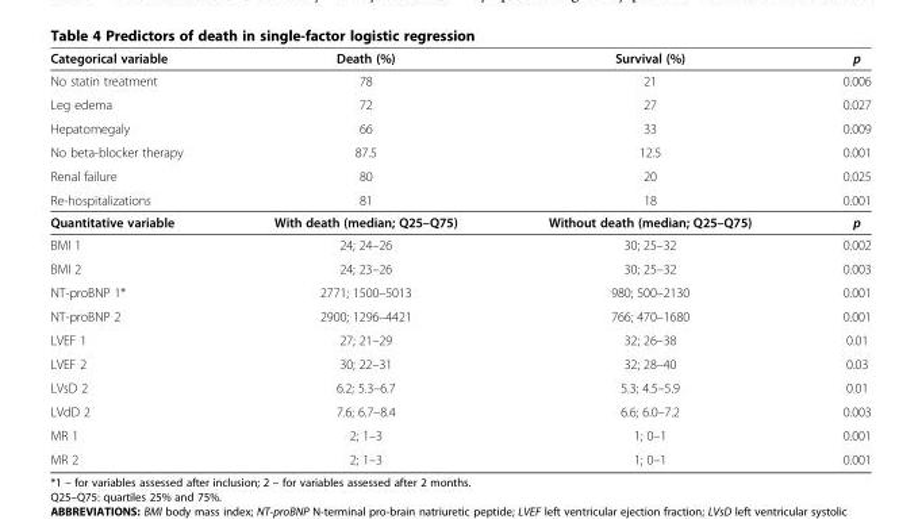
<table><thead><tr><td>Categorical variable</td><td>Death (%)</td><td>Survival (%)</td><td>p</td></tr></thead><tbody><tr><td>No statin treatment</td><td>78</td><td>21</td><td>0.006</td></tr><tr><td>Leg edema</td><td>72</td><td>27</td><td>0.027</td></tr><tr><td>Hepatomegaly</td><td>66</td><td>33</td><td>0.009</td></tr><tr><td>No beta-blocker therapy</td><td>87.5</td><td>12.5</td><td>0.001</td></tr><tr><td>Renal failure</td><td>80</td><td>20</td><td>0.025</td></tr><tr><td>Re-hospitalizations</td><td>81</td><td>18</td><td>0.001</td></tr><tr><td>Quantitative variable</td><td>With death (median; Q25–Q75)</td><td>Without death (median; Q25–Q75)</td><td>p</td></tr><tr><td>BMI 1</td><td>24; 24–26</td><td>30; 25–32</td><td>0.002</td></tr><tr><td>BMI 2</td><td>24; 23–26</td><td>30; 25–32</td><td>0.003</td></tr><tr><td>NT-proBNP 1*</td><td>2771; 1500–5013</td><td>980; 500–2130</td><td>0.001</td></tr><tr><td>NT-proBNP 2</td><td>2900; 1296–4421</td><td>766; 470–1680</td><td>0.001</td></tr><tr><td>LVEF 1</td><td>27; 21–29</td><td>32; 26–38</td><td>0.01</td></tr><tr><td>LVEF 2</td><td>30; 22–31</td><td>32; 28–40</td><td>0.03</td></tr><tr><td>LVsD 2</td><td>6.2; 5.3–6.7</td><td>5.3; 4.5–5.9</td><td>0.01</td></tr><tr><td>LVdD 2</td><td>7.6; 6.7–8.4</td><td>6.6; 6.0–7.2</td><td>0.003</td></tr><tr><td>MR 1</td><td>2; 1–3</td><td>1; 0–1</td><td>0.001</td></tr><tr><td>MR 2</td><td>2; 1–3</td><td>1; 0–1</td><td>0.001</td></tr></tbody></table>